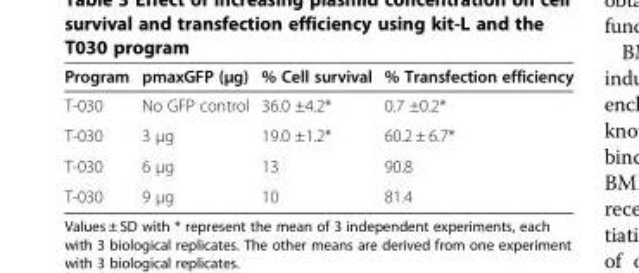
<table><thead><tr><td>Program</td><td>pmaxGFP (μg)</td><td>% Cell survival</td><td>% Transfection efficiency</td></tr></thead><tbody><tr><td>T-030</td><td>No GFP control</td><td>36.0 ±4.2*</td><td>0.7 ±0.2*</td></tr><tr><td>T-030</td><td>3 μg</td><td>19.0 ±1.2*</td><td>60.2 ± 6.7*</td></tr><tr><td>T-030</td><td>6 μg</td><td>13</td><td>90.8</td></tr><tr><td>T-030</td><td>9 μg</td><td>10</td><td>81.4</td></tr></tbody></table>